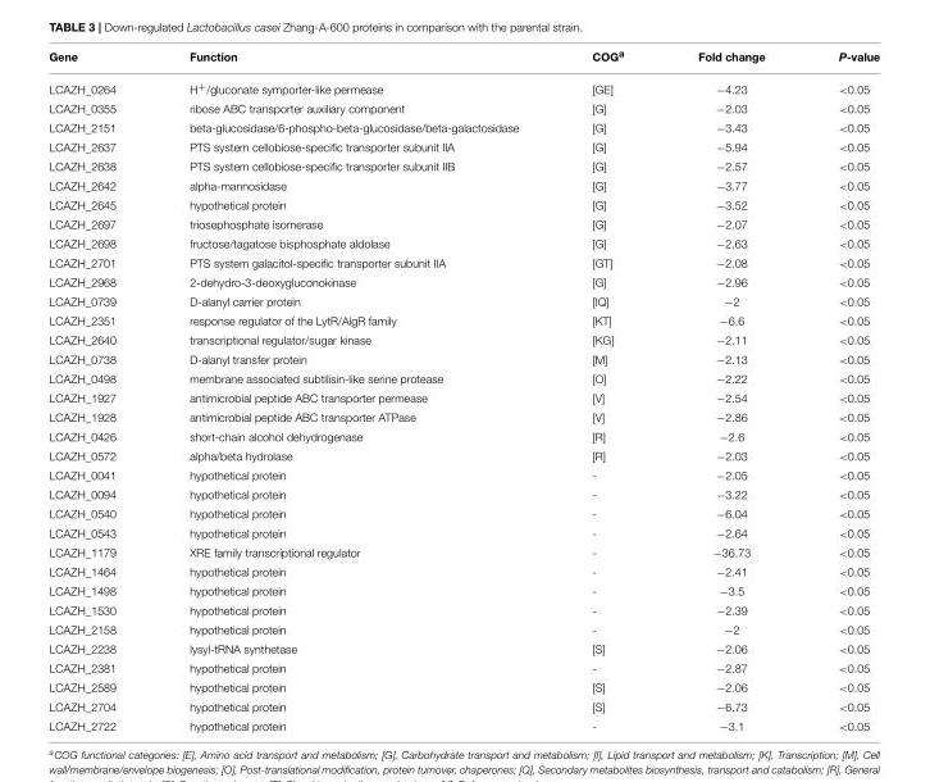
<table><thead><tr><td>Gene</td><td>Function</td><td>COG<sup>a</sup></td><td>Fold change</td><td>P-value</td></tr></thead><tbody><tr><td>LCAZH_0264</td><td>H<sup>+</sup>/gluconate symporter-like permease</td><td>[GE]</td><td>−4.23</td><td>&lt;0.05</td></tr><tr><td>LCAZH_0355</td><td>ribose ABC transporter auxiliary component</td><td>[G]</td><td>−2.03</td><td>&lt;0.05</td></tr><tr><td>LCAZH_2151</td><td>beta-glucosidase/6-phospho-beta-glucosidase/beta-galactosidase</td><td>[G]</td><td>−3.43</td><td>&lt;0.05</td></tr><tr><td>LCAZH_2637</td><td>PTS system cellobiose-specific transporter subunit IIA</td><td>[G]</td><td>−5.94</td><td>&lt;0.05</td></tr><tr><td>LCAZH_2638</td><td>PTS system cellobiose-specific transporter subunit IIB</td><td>[G]</td><td>−2.57</td><td>&lt;0.05</td></tr><tr><td>LCAZH_2642</td><td>alpha-mannosidase</td><td>[G]</td><td>−3.77</td><td>&lt;0.05</td></tr><tr><td>LCAZH_2645</td><td>hypothetical protein</td><td>[G]</td><td>−3.52</td><td>&lt;0.05</td></tr><tr><td>LCAZH_2697</td><td>triosephosphate isomerase</td><td>[G]</td><td>−2.07</td><td>&lt;0.05</td></tr><tr><td>LCAZH_2698</td><td>fructose/tagatose bisphosphate aldolase</td><td>[G]</td><td>−2.63</td><td>&lt;0.05</td></tr><tr><td>LCAZH_2701</td><td>PTS system galacitol-specific transporter subunit IIA</td><td>[GT]</td><td>−2.08</td><td>&lt;0.05</td></tr><tr><td>LCAZH_2968</td><td>2-dehydro-3-deoxygluconokinase</td><td>[G]</td><td>−2.96</td><td>&lt;0.05</td></tr><tr><td>LCAZH_0739</td><td>D-alanyl carrier protein</td><td>[IQ]</td><td>−2</td><td>&lt;0.05</td></tr><tr><td>LCAZH_2351</td><td>response regulator of the LytR/AlgR family</td><td>[KT]</td><td>−6.6</td><td>&lt;0.05</td></tr><tr><td>LCAZH_2640</td><td>transcriptional regulator/sugar kinase</td><td>[KG]</td><td>−2.11</td><td>&lt;0.05</td></tr><tr><td>LCAZH_0738</td><td>D-alanyl transfer protein</td><td>[M]</td><td>−2.13</td><td>&lt;0.05</td></tr><tr><td>LCAZH_0498</td><td>membrane associated subtilisin-like serine protease</td><td>[O]</td><td>−2.22</td><td>&lt;0.05</td></tr><tr><td>LCAZH_1927</td><td>antimicrobial peptide ABC transporter permease</td><td>[V]</td><td>−2.54</td><td>&lt;0.05</td></tr><tr><td>LCAZH_1928</td><td>antimicrobial peptide ABC transporter ATPase</td><td>[V]</td><td>−2.86</td><td>&lt;0.05</td></tr><tr><td>LCAZH_0426</td><td>short-chain alcohol dehydrogenase</td><td>[R]</td><td>−2.6</td><td>&lt;0.05</td></tr><tr><td>LCAZH_0572</td><td>alpha/beta hydrolase</td><td>[R]</td><td>−2.03</td><td>&lt;0.05</td></tr><tr><td>LCAZH_0041</td><td>hypothetical protein</td><td>-</td><td>−2.05</td><td>&lt;0.05</td></tr><tr><td>LCAZH_0094</td><td>hypothetical protein</td><td>-</td><td>−3.22</td><td>&lt;0.05</td></tr><tr><td>LCAZH_0540</td><td>hypothetical protein</td><td>-</td><td>−6.04</td><td>&lt;0.05</td></tr><tr><td>LCAZH_0543</td><td>hypothetical protein</td><td>-</td><td>−2.64</td><td>&lt;0.05</td></tr><tr><td>LCAZH_1179</td><td>XRE family transcriptional regulator</td><td>-</td><td>−36.73</td><td>&lt;0.05</td></tr><tr><td>LCAZH_1464</td><td>hypothetical protein</td><td>-</td><td>−2.41</td><td>&lt;0.05</td></tr><tr><td>LCAZH_1498</td><td>hypothetical protein</td><td>-</td><td>−3.5</td><td>&lt;0.05</td></tr><tr><td>LCAZH_1530</td><td>hypothetical protein</td><td>-</td><td>−2.39</td><td>&lt;0.05</td></tr><tr><td>LCAZH_2158</td><td>hypothetical protein</td><td>-</td><td>−2</td><td>&lt;0.05</td></tr><tr><td>LCAZH_2238</td><td>lysyl-tRNA synthetase</td><td>[S]</td><td>−2.06</td><td>&lt;0.05</td></tr><tr><td>LCAZH_2381</td><td>hypothetical protein</td><td>-</td><td>−2.87</td><td>&lt;0.05</td></tr><tr><td>LCAZH_2589</td><td>hypothetical protein</td><td>[S]</td><td>−2.06</td><td>&lt;0.05</td></tr><tr><td>LCAZH_2704</td><td>hypothetical protein</td><td>[S]</td><td>−6.73</td><td>&lt;0.05</td></tr><tr><td>LCAZH_2722</td><td>hypothetical protein</td><td>-</td><td>−3.1</td><td>&lt;0.05</td></tr></tbody></table>